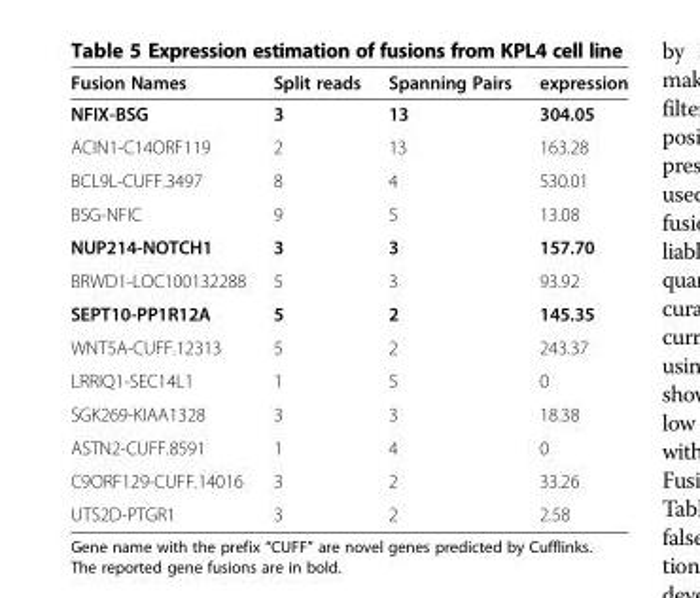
<table><thead><tr><td>Fusion Names</td><td>Split reads</td><td>Spanning Pairs</td><td>expression</td></tr></thead><tbody><tr><td>NFIX-BSG</td><td>3</td><td>13</td><td>304.05</td></tr><tr><td>ACIN1-C14ORF119</td><td>2</td><td>13</td><td>163.28</td></tr><tr><td>BCL9L-CUFF.3497</td><td>8</td><td>4</td><td>530.01</td></tr><tr><td>BSG-NFIC</td><td>9</td><td>5</td><td>13.08</td></tr><tr><td>NUP214-NOTCH1</td><td>3</td><td>3</td><td>157.70</td></tr><tr><td>BRWD1-LOC100132288</td><td>5</td><td>3</td><td>93.92</td></tr><tr><td>SEPT10-PP1R12A</td><td>5</td><td>2</td><td>145.35</td></tr><tr><td>WNT5A-CUFF.12313</td><td>5</td><td>2</td><td>243.37</td></tr><tr><td>LRRIQ1-SEC14L1</td><td>1</td><td>5</td><td>0</td></tr><tr><td>SGK269-KIAA1328</td><td>3</td><td>3</td><td>18.38</td></tr><tr><td>ASTN2-CUFF.8591</td><td>1</td><td>4</td><td>0</td></tr><tr><td>C9ORF129-CUFF.14016</td><td>3</td><td>2</td><td>33.26</td></tr><tr><td>UTS2D-PTGR1</td><td>3</td><td>2</td><td>2.58</td></tr></tbody></table>